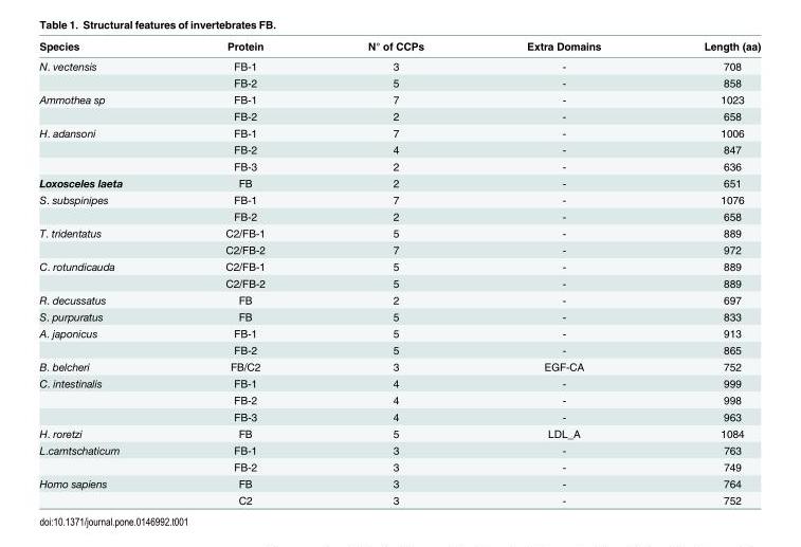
<table><thead><tr><td>Species</td><td>Protein</td><td>N° of CCPs</td><td>Extra Domains</td><td>Length (aa)</td></tr></thead><tbody><tr><td rowspan="2">N. vectensis</td><td>FB-1</td><td>3</td><td>-</td><td>708</td></tr><tr><td>FB-2</td><td>5</td><td>-</td><td>858</td></tr><tr><td rowspan="2">Ammothea sp</td><td>FB-1</td><td>7</td><td>-</td><td>1023</td></tr><tr><td>FB-2</td><td>2</td><td>-</td><td>658</td></tr><tr><td rowspan="3">H. adansoni</td><td>FB-1</td><td>7</td><td>-</td><td>1006</td></tr><tr><td>FB-2</td><td>4</td><td>-</td><td>847</td></tr><tr><td>FB-3</td><td>2</td><td>-</td><td>636</td></tr><tr><td>Loxosceles laeta</td><td>FB</td><td>2</td><td>-</td><td>651</td></tr><tr><td rowspan="2">S. subspinipes</td><td>FB-1</td><td>7</td><td>-</td><td>1076</td></tr><tr><td>FB-2</td><td>2</td><td>-</td><td>658</td></tr><tr><td rowspan="2">T. tridentatus</td><td>C2/FB-1</td><td>5</td><td>-</td><td>889</td></tr><tr><td>C2/FB-2</td><td>7</td><td>-</td><td>972</td></tr><tr><td rowspan="2">C. rotundicauda</td><td>C2/FB-1</td><td>5</td><td>-</td><td>889</td></tr><tr><td>C2/FB-2</td><td>5</td><td>-</td><td>889</td></tr><tr><td>R. decussatus</td><td>FB</td><td>2</td><td>-</td><td>697</td></tr><tr><td>S. purpuratus</td><td>FB</td><td>5</td><td>-</td><td>833</td></tr><tr><td rowspan="2">A. japonicus</td><td>FB-1</td><td>5</td><td>-</td><td>913</td></tr><tr><td>FB-2</td><td>5</td><td>-</td><td>865</td></tr><tr><td>B. belcheri</td><td>FB/C2</td><td>3</td><td>EGF-CA</td><td>752</td></tr><tr><td rowspan="3">C. intestinalis</td><td>FB-1</td><td>4</td><td>-</td><td>999</td></tr><tr><td>FB-2</td><td>4</td><td>-</td><td>998</td></tr><tr><td>FB-3</td><td>4</td><td>-</td><td>963</td></tr><tr><td>H. roretzi</td><td>FB</td><td>5</td><td>LDL_A</td><td>1084</td></tr><tr><td rowspan="2">L.camtschaticum</td><td>FB-1</td><td>3</td><td>-</td><td>763</td></tr><tr><td>FB-2</td><td>3</td><td>-</td><td>749</td></tr><tr><td rowspan="2">Homo sapiens</td><td>FB</td><td>3</td><td>-</td><td>764</td></tr><tr><td>C2</td><td>3</td><td>-</td><td>752</td></tr></tbody></table>